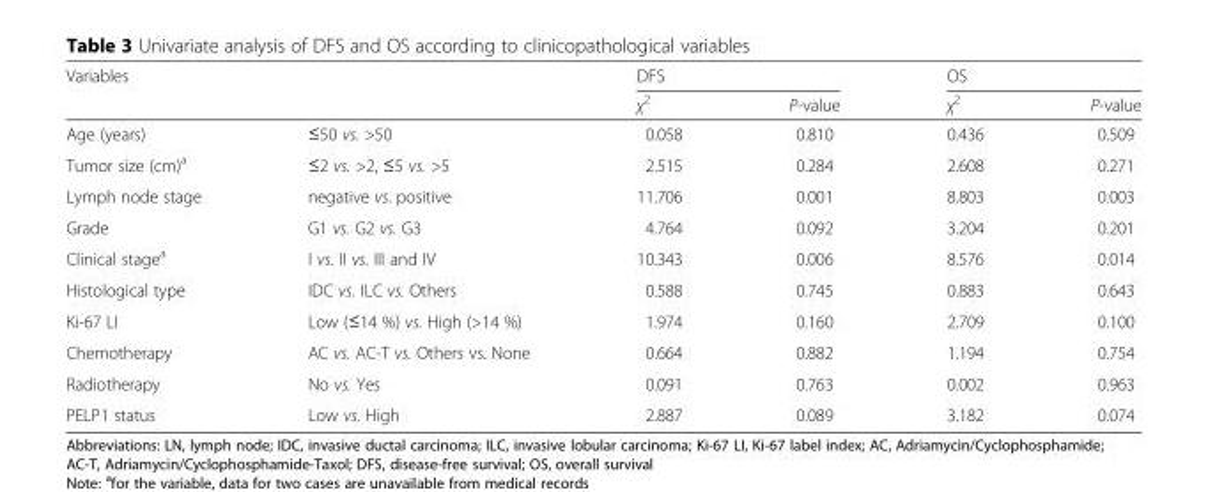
<table><thead><tr><td rowspan="2" colspan="2">Variables</td><td colspan="2">DFS</td><td colspan="2">OS</td></tr><tr><td rowspan="2">χ<sup>2</sup> 0.058</td><td rowspan="2">P-value 0.810</td><td rowspan="2">χ<sup>2</sup> 0.436</td><td rowspan="2">P-value 0.509</td></tr><tr><td>Age (years)</td><td>≤50 vs. &gt;50</td></tr></thead><tbody><tr><td>Tumor size (cm)<sup>a</sup></td><td>≤2 vs. &gt;2, ≤5 vs. &gt;5</td><td>2.515</td><td>0.284</td><td>2.608</td><td>0.271</td></tr><tr><td>Lymph node stage</td><td>negative vs. positive</td><td>11.706</td><td>0.001</td><td>8.803</td><td>0.003</td></tr><tr><td>Grade</td><td>G1 vs. G2 vs. G3</td><td>4.764</td><td>0.092</td><td>3.204</td><td>0.201</td></tr><tr><td>Clinical stage<sup>a</sup></td><td>I vs. II vs. III and IV</td><td>10.343</td><td>0.006</td><td>8.576</td><td>0.014</td></tr><tr><td>Histological type</td><td>IDC vs. ILC vs. Others</td><td>0.588</td><td>0.745</td><td>0.883</td><td>0.643</td></tr><tr><td>Ki-67 LI</td><td>Low (≤14 %) vs. High (&gt;14 %)</td><td>1.974</td><td>0.160</td><td>2.709</td><td>0.100</td></tr><tr><td>Chemotherapy</td><td>AC vs. AC-T vs. Others vs. None</td><td>0.664</td><td>0.882</td><td>1.194</td><td>0.754</td></tr><tr><td>Radiotherapy</td><td>No vs. Yes</td><td>0.091</td><td>0.763</td><td>0.002</td><td>0.963</td></tr><tr><td>PELP1 status</td><td>Low vs. High</td><td>2.887</td><td>0.089</td><td>3.182</td><td>0.074</td></tr></tbody></table>